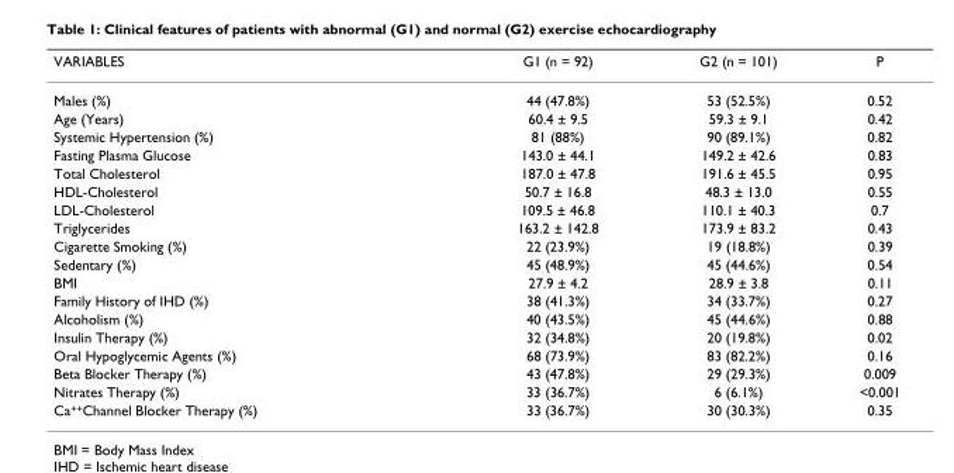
<table><thead><tr><td>VARIABLES</td><td>G1 (n = 92)</td><td>G2 (n = 101)</td><td>P</td></tr></thead><tbody><tr><td>Males (%)</td><td>44 (47.8%)</td><td>53 (52.5%)</td><td>0.52</td></tr><tr><td>Age (Years)</td><td>60.4 ± 9.5</td><td>59.3 ± 9.1</td><td>0.42</td></tr><tr><td>Systemic Hypertension (%)</td><td>81 (88%)</td><td>90 (89.1%)</td><td>0.82</td></tr><tr><td>Fasting Plasma Glucose</td><td>143.0 ± 44.1</td><td>149.2 ± 42.6</td><td>0.83</td></tr><tr><td>Total Cholesterol</td><td>187.0 ± 47.8</td><td>191.6 ± 45.5</td><td>0.95</td></tr><tr><td>HDL-Cholesterol</td><td>50.7 ± 16.8</td><td>48.3 ± 13.0</td><td>0.55</td></tr><tr><td>LDL-Cholesterol</td><td>109.5 ± 46.8</td><td>110.1 ± 40.3</td><td>0.7</td></tr><tr><td>Triglycerides</td><td>163.2 ± 142.8</td><td>173.9 ± 83.2</td><td>0.43</td></tr><tr><td>Cigarette Smoking (%)</td><td>22 (23.9%)</td><td>19 (18.8%)</td><td>0.39</td></tr><tr><td>Sedentary (%)</td><td>45 (48.9%)</td><td>45 (44.6%)</td><td>0.54</td></tr><tr><td>BMI</td><td>27.9 ± 4.2</td><td>28.9 ± 3.8</td><td>0.11</td></tr><tr><td>Family History of IHD (%)</td><td>38 (41.3%)</td><td>34 (33.7%)</td><td>0.27</td></tr><tr><td>Alcoholism (%)</td><td>40 (43.5%)</td><td>45 (44.6%)</td><td>0.88</td></tr><tr><td>Insulin Therapy (%)</td><td>32 (34.8%)</td><td>20 (19.8%)</td><td>0.02</td></tr><tr><td>Oral Hypoglycemic Agents (%)</td><td>68 (73.9%)</td><td>83 (82.2%)</td><td>0.16</td></tr><tr><td>Beta Blocker Therapy (%)</td><td>43 (47.8%)</td><td>29 (29.3%)</td><td>0.009</td></tr><tr><td>Nitrates Therapy (%)</td><td>33 (36.7%)</td><td>6 (6.1%)</td><td>&lt;0.001</td></tr><tr><td>Ca<sup>++</sup>Channel Blocker Therapy (%)</td><td>33 (36.7%)</td><td>30 (30.3%)</td><td>0.35</td></tr></tbody></table>